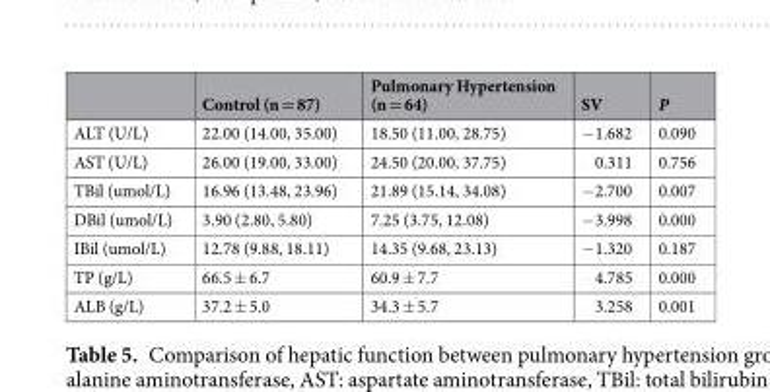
<table><thead><tr><td></td><td>Control (n = 87)</td><td>Pulmonary Hypertension (n = 64)</td><td>SV</td><td>P</td></tr></thead><tbody><tr><td>ALT (U/L)</td><td>22.00 (14.00, 35.00)</td><td>18.50 (11.00, 28.75)</td><td>−1.682</td><td>0.090</td></tr><tr><td>AST (U/L)</td><td>26.00 (19.00, 33.00)</td><td>24.50 (20.00, 37.75)</td><td>0.311</td><td>0.756</td></tr><tr><td>TBil (umol/L)</td><td>16.96 (13.48, 23.96)</td><td>21.89 (15.14, 34.08)</td><td>−2.700</td><td>0.007</td></tr><tr><td>DBil (umol/L)</td><td>3.90 (2.80, 5.80)</td><td>7.25 (3.75, 12.08)</td><td>−3.998</td><td>0.000</td></tr><tr><td>IBil (umol/L)</td><td>12.78 (9.88, 18.11)</td><td>14.35 (9.68, 23.13)</td><td>−1.320</td><td>0.187</td></tr><tr><td>TP (g/L)</td><td>66.5 ± 6.7</td><td>60.9 ± 7.7</td><td>4.785</td><td>0.000</td></tr><tr><td>ALB (g/L)</td><td>37.2 ± 5.0</td><td>34.3 ± 5.7</td><td>3.258</td><td>0.001</td></tr></tbody></table>